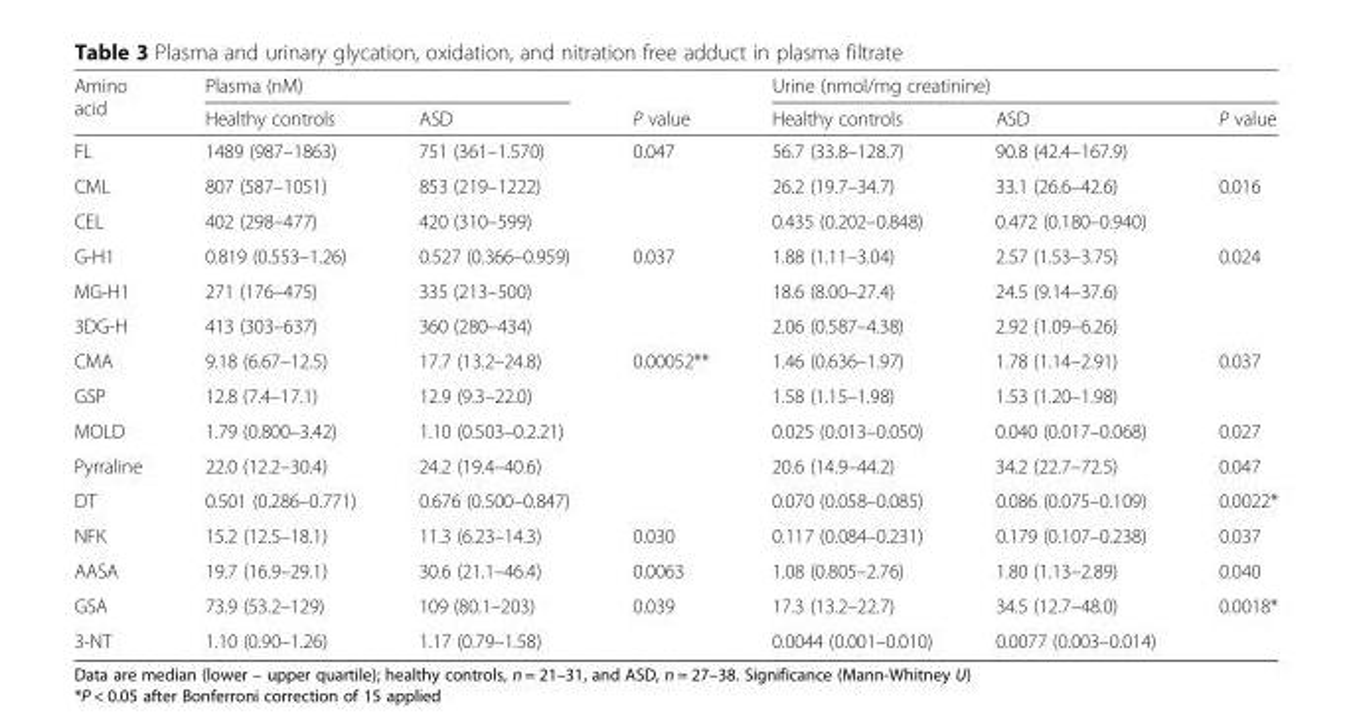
<table><thead><tr><td rowspan="2">Amino acid</td><td colspan="2">Plasma (nM)</td><td rowspan="2">P value</td><td colspan="3">Urine (nmol/mg creatinine)</td></tr><tr><td>Healthy controls</td><td>ASD</td><td>Healthy controls</td><td>ASD</td><td>P value</td></tr></thead><tbody><tr><td>FL</td><td>1489 (987–1863)</td><td>751 (361–1.570)</td><td>0.047</td><td>56.7 (33.8–128.7)</td><td>90.8 (42.4–167.9)</td><td></td></tr><tr><td>CML</td><td>807 (587–1051)</td><td>853 (219–1222)</td><td></td><td>26.2 (19.7–34.7)</td><td>33.1 (26.6–42.6)</td><td>0.016</td></tr><tr><td>CEL</td><td>402 (298–477)</td><td>420 (310–599)</td><td></td><td>0.435 (0.202–0.848)</td><td>0.472 (0.180–0.940)</td><td></td></tr><tr><td>G-H1</td><td>0.819 (0.553–1.26)</td><td>0.527 (0.366–0.959)</td><td>0.037</td><td>1.88 (1.11–3.04)</td><td>2.57 (1.53–3.75)</td><td>0.024</td></tr><tr><td>MG-H1</td><td>271 (176–475)</td><td>335 (213–500)</td><td></td><td>18.6 (8.00–27.4)</td><td>24.5 (9.14–37.6)</td><td></td></tr><tr><td>3DG-H</td><td>413 (303–637)</td><td>360 (280–434)</td><td></td><td>2.06 (0.587–4.38)</td><td>2.92 (1.09–6.26)</td><td></td></tr><tr><td>CMA</td><td>9.18 (6.67–12.5)</td><td>17.7 (13.2–24.8)</td><td>0.00052**</td><td>1.46 (0.636–1.97)</td><td>1.78 (1.14–2.91)</td><td>0.037</td></tr><tr><td>GSP</td><td>12.8 (7.4–17.1)</td><td>12.9 (9.3–22.0)</td><td></td><td>1.58 (1.15–1.98)</td><td>1.53 (1.20–1.98)</td><td></td></tr><tr><td>MOLD</td><td>1.79 (0.800–3.42)</td><td>1.10 (0.503–0.2.21)</td><td></td><td>0.025 (0.013–0.050)</td><td>0.040 (0.017–0.068)</td><td>0.027</td></tr><tr><td>Pyrraline</td><td>22.0 (12.2–30.4)</td><td>24.2 (19.4–40.6)</td><td></td><td>20.6 (14.9–44.2)</td><td>34.2 (22.7–72.5)</td><td>0.047</td></tr><tr><td>DT</td><td>0.501 (0.286–0.771)</td><td>0.676 (0.500–0.847)</td><td></td><td>0.070 (0.058–0.085)</td><td>0.086 (0.075–0.109)</td><td>0.0022*</td></tr><tr><td>NFK</td><td>15.2 (12.5–18.1)</td><td>11.3 (6.23–14.3)</td><td>0.030</td><td>0.117 (0.084–0.231)</td><td>0.179 (0.107–0.238)</td><td>0.037</td></tr><tr><td>AASA</td><td>19.7 (16.9–29.1)</td><td>30.6 (21.1–46.4)</td><td>0.0063</td><td>1.08 (0.805–2.76)</td><td>1.80 (1.13–2.89)</td><td>0.040</td></tr><tr><td>GSA</td><td>73.9 (53.2–129)</td><td>109 (80.1–203)</td><td>0.039</td><td>17.3 (13.2–22.7)</td><td>34.5 (12.7–48.0)</td><td>0.0018*</td></tr><tr><td>3-NT</td><td>1.10 (0.90–1.26)</td><td>1.17 (0.79–1.58)</td><td></td><td>0.0044 (0.001–0.010)</td><td>0.0077 (0.003–0.014)</td><td></td></tr></tbody></table>